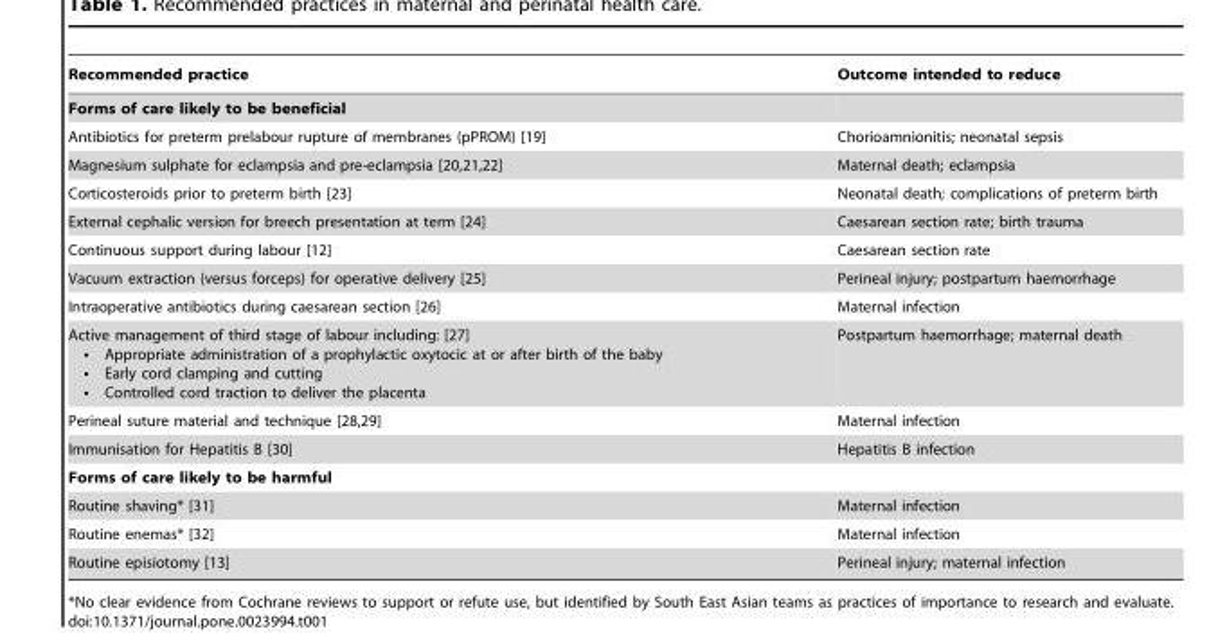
<table><thead><tr><td>Recommended practice</td><td>Outcome intended to reduce</td></tr></thead><tbody><tr><td colspan="2">Forms of care likely to be beneficial</td></tr><tr><td>Antibiotics for preterm prelabour rupture of membranes (pPROM) [19]</td><td>Chorioamnionitis; neonatal sepsis</td></tr><tr><td>Magnesium sulphate for eclampsia and pre-eclampsia [20,21,22]</td><td>Maternal death; eclampsia</td></tr><tr><td>Corticosteroids prior to preterm birth [23]</td><td>Neonatal death; complications of preterm birth</td></tr><tr><td>External cephalic version for breech presentation at term [24]</td><td>Caesarean section rate; birth trauma</td></tr><tr><td>Continuous support during labour [12]</td><td>Caesarean section rate</td></tr><tr><td>Vacuum extraction (versus forceps) for operative delivery [25]</td><td>Perineal injury; postpartum haemorrhage</td></tr><tr><td>Intraoperative antibiotics during caesarean section [26]</td><td>Maternal infection</td></tr><tr><td>Active management of third stage of labour including: [27] • Appropriate administration of a prophylactic oxytocic at or after birth of the baby • Early cord clamping and cutting • Controlled cord traction to deliver the placenta</td><td>Postpartum haemorrhage; maternal death</td></tr><tr><td>Perineal suture material and technique [28,29]</td><td>Maternal infection</td></tr><tr><td>Immunisation for Hepatitis B [30]</td><td>Hepatitis B infection</td></tr><tr><td colspan="2">Forms of care likely to be harmful</td></tr><tr><td>Routine shaving* [31]</td><td>Maternal infection</td></tr><tr><td>Routine enemas* [32]</td><td>Maternal infection</td></tr><tr><td>Routine episiotomy [13]</td><td>Perineal injury; maternal infection</td></tr></tbody></table>